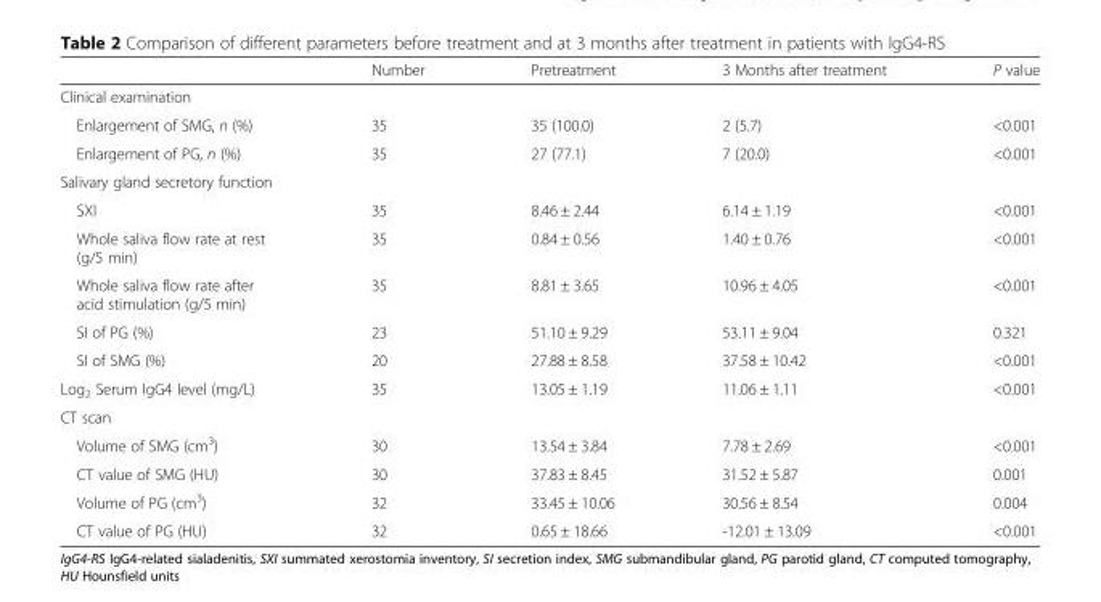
<table><thead><tr><td></td><td>Number</td><td>Pretreatment</td><td>3 Months after treatment</td><td>P value</td></tr></thead><tbody><tr><td colspan="5">Clinical examination</td></tr><tr><td>Enlargement of SMG, n (%)</td><td>35</td><td>35 (100.0)</td><td>2 (5.7)</td><td>&lt;0.001</td></tr><tr><td>Enlargement of PG, n (%)</td><td>35</td><td>27 (77.1)</td><td>7 (20.0)</td><td>&lt;0.001</td></tr><tr><td colspan="5">Salivary gland secretory function</td></tr><tr><td>SXI</td><td>35</td><td>8.46 ± 2.44</td><td>6.14 ± 1.19</td><td>&lt;0.001</td></tr><tr><td>Whole saliva flow rate at rest (g/5 min)</td><td>35</td><td>0.84 ± 0.56</td><td>1.40 ± 0.76</td><td>&lt;0.001</td></tr><tr><td>Whole saliva flow rate after acid stimulation (g/5 min)</td><td>35</td><td>8.81 ± 3.65</td><td>10.96 ± 4.05</td><td>&lt;0.001</td></tr><tr><td>SI of PG (%)</td><td>23</td><td>51.10 ± 9.29</td><td>53.11 ± 9.04</td><td>0.321</td></tr><tr><td>SI of SMG (%)</td><td>20</td><td>27.88 ± 8.58</td><td>37.58 ± 10.42</td><td>&lt;0.001</td></tr><tr><td>Log<sub>2</sub> Serum IgG4 level (mg/L)</td><td>35</td><td>13.05 ± 1.19</td><td>11.06 ± 1.11</td><td>&lt;0.001</td></tr><tr><td colspan="5">CT scan</td></tr><tr><td>Volume of SMG (cm<sup>3</sup>)</td><td>30</td><td>13.54 ± 3.84</td><td>7.78 ± 2.69</td><td>&lt;0.001</td></tr><tr><td>CT value of SMG (HU)</td><td>30</td><td>37.83 ± 8.45</td><td>31.52 ± 5.87</td><td>0.001</td></tr><tr><td>Volume of PG (cm<sup>3</sup>)</td><td>32</td><td>33.45 ± 10.06</td><td>30.56 ± 8.54</td><td>0.004</td></tr><tr><td>CT value of PG (HU)</td><td>32</td><td>0.65 ± 18.66</td><td>-12.01 ± 13.09</td><td>&lt;0.001</td></tr></tbody></table>